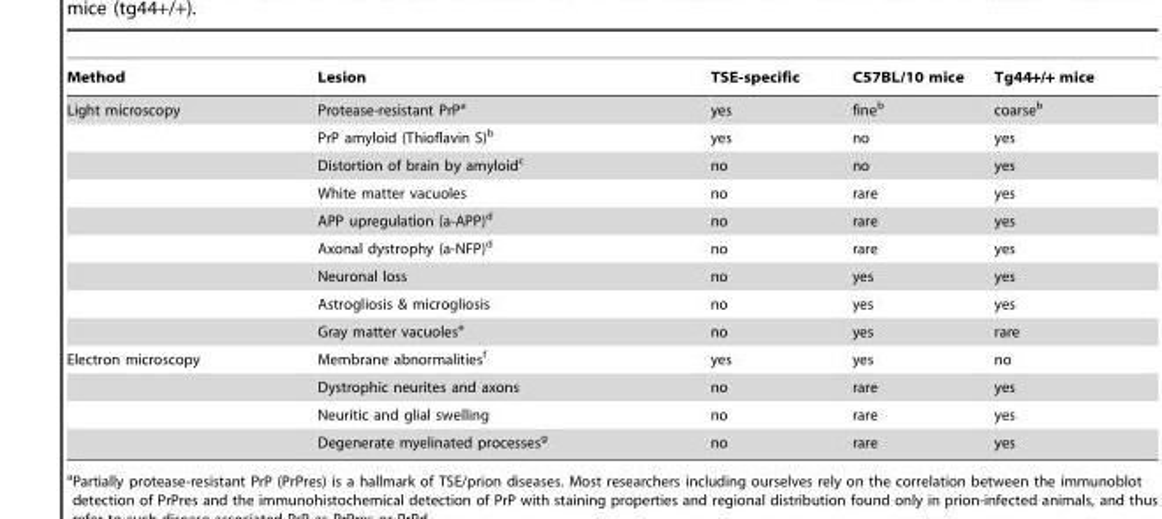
<table><thead><tr><td>Method</td><td>Lesion</td><td>TSE-specific</td><td>C57BL/10 mice</td><td>Tg44+/+ mice</td></tr></thead><tbody><tr><td rowspan="9">Light microscopy</td><td>Protease-resistant PrP<sup>a</sup></td><td>yes</td><td>fine<sup>b</sup></td><td>coarse<sup>b</sup></td></tr><tr><td>PrP amyloid (Thioflavin S)<sup>b</sup></td><td>yes</td><td>no</td><td>yes</td></tr><tr><td>Distortion of brain by amyloid<sup>c</sup></td><td>no</td><td>no</td><td>yes</td></tr><tr><td>White matter vacuoles</td><td>no</td><td>rare</td><td>yes</td></tr><tr><td>APP upregulation (a-APP)<sup>d</sup></td><td>no</td><td>rare</td><td>yes</td></tr><tr><td>Axonal dystrophy (a-NFP)<sup>d</sup></td><td>no</td><td>rare</td><td>yes</td></tr><tr><td>Neuronal loss</td><td>no</td><td>yes</td><td>yes</td></tr><tr><td>Astrogliosis &amp; microgliosis</td><td>no</td><td>yes</td><td>yes</td></tr><tr><td>Gray matter vacuoles<sup>e</sup></td><td>no</td><td>yes</td><td>rare</td></tr><tr><td rowspan="4">Electron microscopy</td><td>Membrane abnormalities<sup>f</sup></td><td>yes</td><td>yes</td><td>no</td></tr><tr><td>Dystrophic neurites and axons</td><td>no</td><td>rare</td><td>yes</td></tr><tr><td>Neuritic and glial swelling</td><td>no</td><td>rare</td><td>yes</td></tr><tr><td>Degenerate myelinated processes<sup>g</sup></td><td>no</td><td>rare</td><td>yes</td></tr></tbody></table>